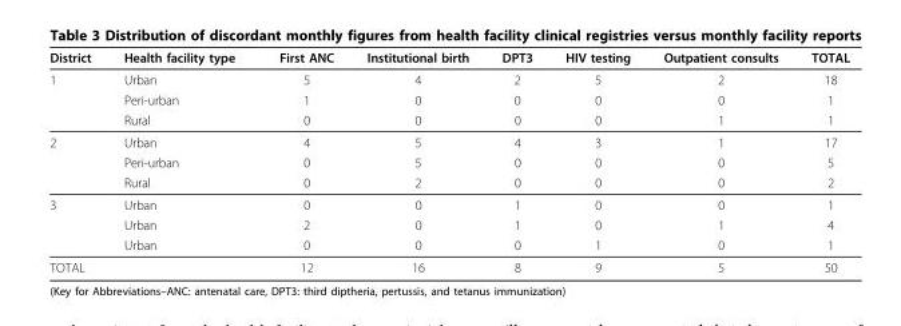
<table><thead><tr><td>District</td><td>Health facility type</td><td>First ANC</td><td>Institutional birth</td><td>DPT3</td><td>HIV testing</td><td>Outpatient consults</td><td>TOTAL</td></tr></thead><tbody><tr><td rowspan="3">1</td><td>Urban</td><td>5</td><td>4</td><td>2</td><td>5</td><td>2</td><td>18</td></tr><tr><td>Peri-urban</td><td>1</td><td>0</td><td>0</td><td>0</td><td>0</td><td>1</td></tr><tr><td>Rural</td><td>0</td><td>0</td><td>0</td><td>0</td><td>1</td><td>1</td></tr><tr><td rowspan="3">2</td><td>Urban</td><td>4</td><td>5</td><td>4</td><td>3</td><td>1</td><td>17</td></tr><tr><td>Peri-urban</td><td>0</td><td>5</td><td>0</td><td>0</td><td>0</td><td>5</td></tr><tr><td>Rural</td><td>0</td><td>2</td><td>0</td><td>0</td><td>0</td><td>2</td></tr><tr><td rowspan="3">3</td><td>Urban</td><td>0</td><td>0</td><td>1</td><td>0</td><td>0</td><td>1</td></tr><tr><td>Urban</td><td>2</td><td>0</td><td>1</td><td>0</td><td>1</td><td>4</td></tr><tr><td>Urban</td><td>0</td><td>0</td><td>0</td><td>1</td><td>0</td><td>1</td></tr><tr><td colspan="2">TOTAL</td><td>12</td><td>16</td><td>8</td><td>9</td><td>5</td><td>50</td></tr></tbody></table>